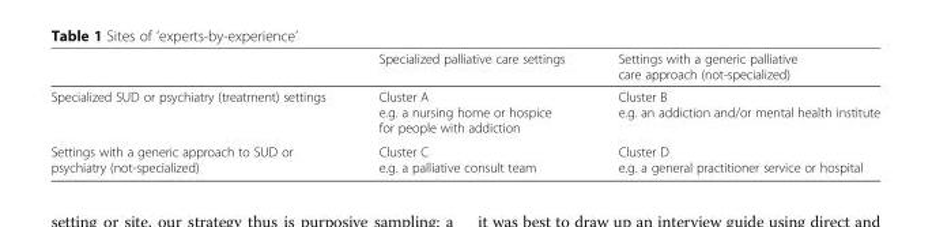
<table><thead><tr><td></td><td>Specialized palliative care settings</td><td>Settings with a generic palliative care approach (not-specialized)</td></tr></thead><tbody><tr><td>Specialized SUD or psychiatry (treatment) settings</td><td>Cluster A e.g. a nursing home or hospice for people with addiction</td><td>Cluster B e.g. an addiction and/or mental health institute</td></tr><tr><td>Settings with a generic approach to SUD or psychiatry (not-specialized)</td><td>Cluster C e.g. a palliative consult team</td><td>Cluster D e.g. a general practitioner service or hospital</td></tr></tbody></table>